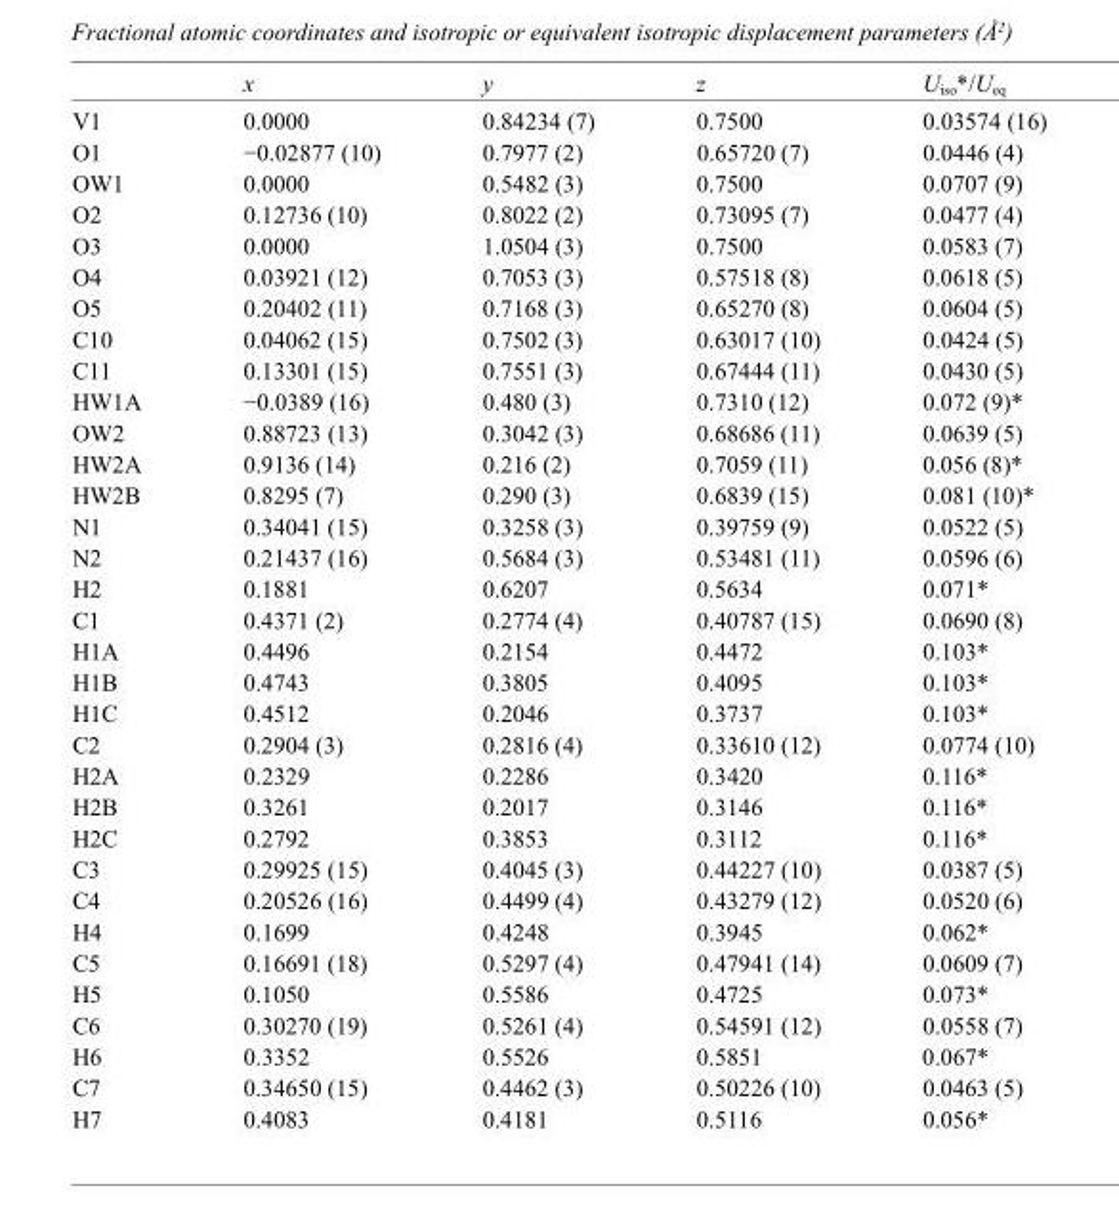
<table><thead><tr><td></td><td>x</td><td>y</td><td>z</td><td>U<sub>iso</sub>*/U<sub>eq</sub></td></tr></thead><tbody><tr><td>V1</td><td>0.0000</td><td>0.84234 (7)</td><td>0.7500</td><td>0.03574 (16)</td></tr><tr><td>O1</td><td>−0.02877 (10)</td><td>0.7977 (2)</td><td>0.65720 (7)</td><td>0.0446 (4)</td></tr><tr><td>OW1</td><td>0.0000</td><td>0.5482 (3)</td><td>0.7500</td><td>0.0707 (9)</td></tr><tr><td>O2</td><td>0.12736 (10)</td><td>0.8022 (2)</td><td>0.73095 (7)</td><td>0.0477 (4)</td></tr><tr><td>O3</td><td>0.0000</td><td>1.0504 (3)</td><td>0.7500</td><td>0.0583 (7)</td></tr><tr><td>O4</td><td>0.03921 (12)</td><td>0.7053 (3)</td><td>0.57518 (8)</td><td>0.0618 (5)</td></tr><tr><td>O5</td><td>0.20402 (11)</td><td>0.7168 (3)</td><td>0.65270 (8)</td><td>0.0604 (5)</td></tr><tr><td>C10</td><td>0.04062 (15)</td><td>0.7502 (3)</td><td>0.63017 (10)</td><td>0.0424 (5)</td></tr><tr><td>C11</td><td>0.13301 (15)</td><td>0.7551 (3)</td><td>0.67444 (11)</td><td>0.0430 (5)</td></tr><tr><td>HW1A</td><td>−0.0389 (16)</td><td>0.480 (3)</td><td>0.7310 (12)</td><td>0.072 (9)*</td></tr><tr><td>OW2</td><td>0.88723 (13)</td><td>0.3042 (3)</td><td>0.68686 (11)</td><td>0.0639 (5)</td></tr><tr><td>HW2A</td><td>0.9136 (14)</td><td>0.216 (2)</td><td>0.7059 (11)</td><td>0.056 (8)*</td></tr><tr><td>HW2B</td><td>0.8295 (7)</td><td>0.290 (3)</td><td>0.6839 (15)</td><td>0.081 (10)*</td></tr><tr><td>N1</td><td>0.34041 (15)</td><td>0.3258 (3)</td><td>0.39759 (9)</td><td>0.0522 (5)</td></tr><tr><td>N2</td><td>0.21437 (16)</td><td>0.5684 (3)</td><td>0.53481 (11)</td><td>0.0596 (6)</td></tr><tr><td>H2</td><td>0.1881</td><td>0.6207</td><td>0.5634</td><td>0.071*</td></tr><tr><td>C1</td><td>0.4371 (2)</td><td>0.2774 (4)</td><td>0.40787 (15)</td><td>0.0690 (8)</td></tr><tr><td>H1A</td><td>0.4496</td><td>0.2154</td><td>0.4472</td><td>0.103*</td></tr><tr><td>H1B</td><td>0.4743</td><td>0.3805</td><td>0.4095</td><td>0.103*</td></tr><tr><td>H1C</td><td>0.4512</td><td>0.2046</td><td>0.3737</td><td>0.103*</td></tr><tr><td>C2</td><td>0.2904 (3)</td><td>0.2816 (4)</td><td>0.33610 (12)</td><td>0.0774 (10)</td></tr><tr><td>H2A</td><td>0.2329</td><td>0.2286</td><td>0.3420</td><td>0.116*</td></tr><tr><td>H2B</td><td>0.3261</td><td>0.2017</td><td>0.3146</td><td>0.116*</td></tr><tr><td>H2C</td><td>0.2792</td><td>0.3853</td><td>0.3112</td><td>0.116*</td></tr><tr><td>C3</td><td>0.29925 (15)</td><td>0.4045 (3)</td><td>0.44227 (10)</td><td>0.0387 (5)</td></tr><tr><td>C4</td><td>0.20526 (16)</td><td>0.4499 (4)</td><td>0.43279 (12)</td><td>0.0520 (6)</td></tr><tr><td>H4</td><td>0.1699</td><td>0.4248</td><td>0.3945</td><td>0.062*</td></tr><tr><td>C5</td><td>0.16691 (18)</td><td>0.5297 (4)</td><td>0.47941 (14)</td><td>0.0609 (7)</td></tr><tr><td>H5</td><td>0.1050</td><td>0.5586</td><td>0.4725</td><td>0.073*</td></tr><tr><td>C6</td><td>0.30270 (19)</td><td>0.5261 (4)</td><td>0.54591 (12)</td><td>0.0558 (7)</td></tr><tr><td>H6</td><td>0.3352</td><td>0.5526</td><td>0.5851</td><td>0.067*</td></tr><tr><td>C7</td><td>0.34650 (15)</td><td>0.4462 (3)</td><td>0.50226 (10)</td><td>0.0463 (5)</td></tr><tr><td>H7</td><td>0.4083</td><td>0.4181</td><td>0.5116</td><td>0.056*</td></tr></tbody></table>